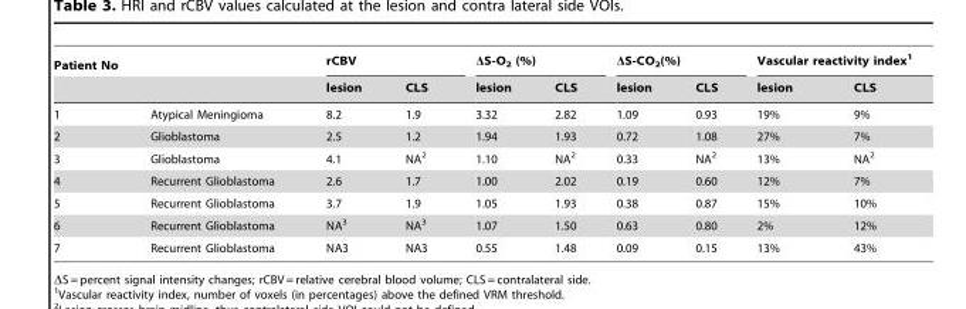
<table><thead><tr><td rowspan="2">Patient No</td><td rowspan="2"></td><td colspan="2">rCBV</td><td colspan="2">ΔS-O<sub>2</sub> (%)</td><td colspan="2">ΔS-CO<sub>2</sub>(%)</td><td colspan="2">Vascular reactivity index<sup>1</sup></td></tr><tr><td>lesion</td><td>CLS</td><td>lesion</td><td>CLS</td><td>lesion</td><td>CLS</td><td>lesion</td><td>CLS</td></tr></thead><tbody><tr><td>1</td><td>Atypical Meningioma</td><td>8.2</td><td>1.9</td><td>3.32</td><td>2.82</td><td>1.09</td><td>0.93</td><td>19%</td><td>9%</td></tr><tr><td>2</td><td>Glioblastoma</td><td>2.5</td><td>1.2</td><td>1.94</td><td>1.93</td><td>0.72</td><td>1.08</td><td>27%</td><td>7%</td></tr><tr><td>3</td><td>Glioblastoma</td><td>4.1</td><td>NA<sup>2</sup></td><td>1.10</td><td>NA<sup>2</sup></td><td>0.33</td><td>NA<sup>2</sup></td><td>13%</td><td>NA<sup>2</sup></td></tr><tr><td>4</td><td>Recurrent Glioblastoma</td><td>2.6</td><td>1.7</td><td>1.00</td><td>2.02</td><td>0.19</td><td>0.60</td><td>12%</td><td>7%</td></tr><tr><td>5</td><td>Recurrent Glioblastoma</td><td>3.7</td><td>1.9</td><td>1.05</td><td>1.93</td><td>0.38</td><td>0.87</td><td>15%</td><td>10%</td></tr><tr><td>6</td><td>Recurrent Glioblastoma</td><td>NA<sup>3</sup></td><td>NA<sup>3</sup></td><td>1.07</td><td>1.50</td><td>0.63</td><td>0.80</td><td>2%</td><td>12%</td></tr><tr><td>7</td><td>Recurrent Glioblastoma</td><td>NA3</td><td>NA3</td><td>0.55</td><td>1.48</td><td>0.09</td><td>0.15</td><td>13%</td><td>43%</td></tr></tbody></table>